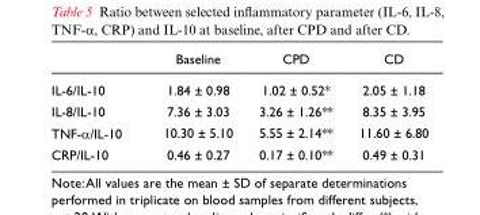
<table><thead><tr><td></td><td>Baseline</td><td>CPD</td><td>CD</td></tr></thead><tbody><tr><td>IL-6/IL-10</td><td>1.84 ± 0.98</td><td>1.02 ± 0.52*</td><td>2.05 ± 1.18</td></tr><tr><td>IL-8/IL-10</td><td>7.36 ± 3.03</td><td>3.26 ± 1.26**</td><td>8.35 ± 3.95</td></tr><tr><td>TNF-α/IL-10</td><td>10.30 ± 5.10</td><td>5.55 ± 2.14**</td><td>11.60 ± 6.80</td></tr><tr><td>CRP/IL-10</td><td>0.46 ± 0.27</td><td>0.17 ± 0.10**</td><td>0.49 ± 0.31</td></tr></tbody></table>